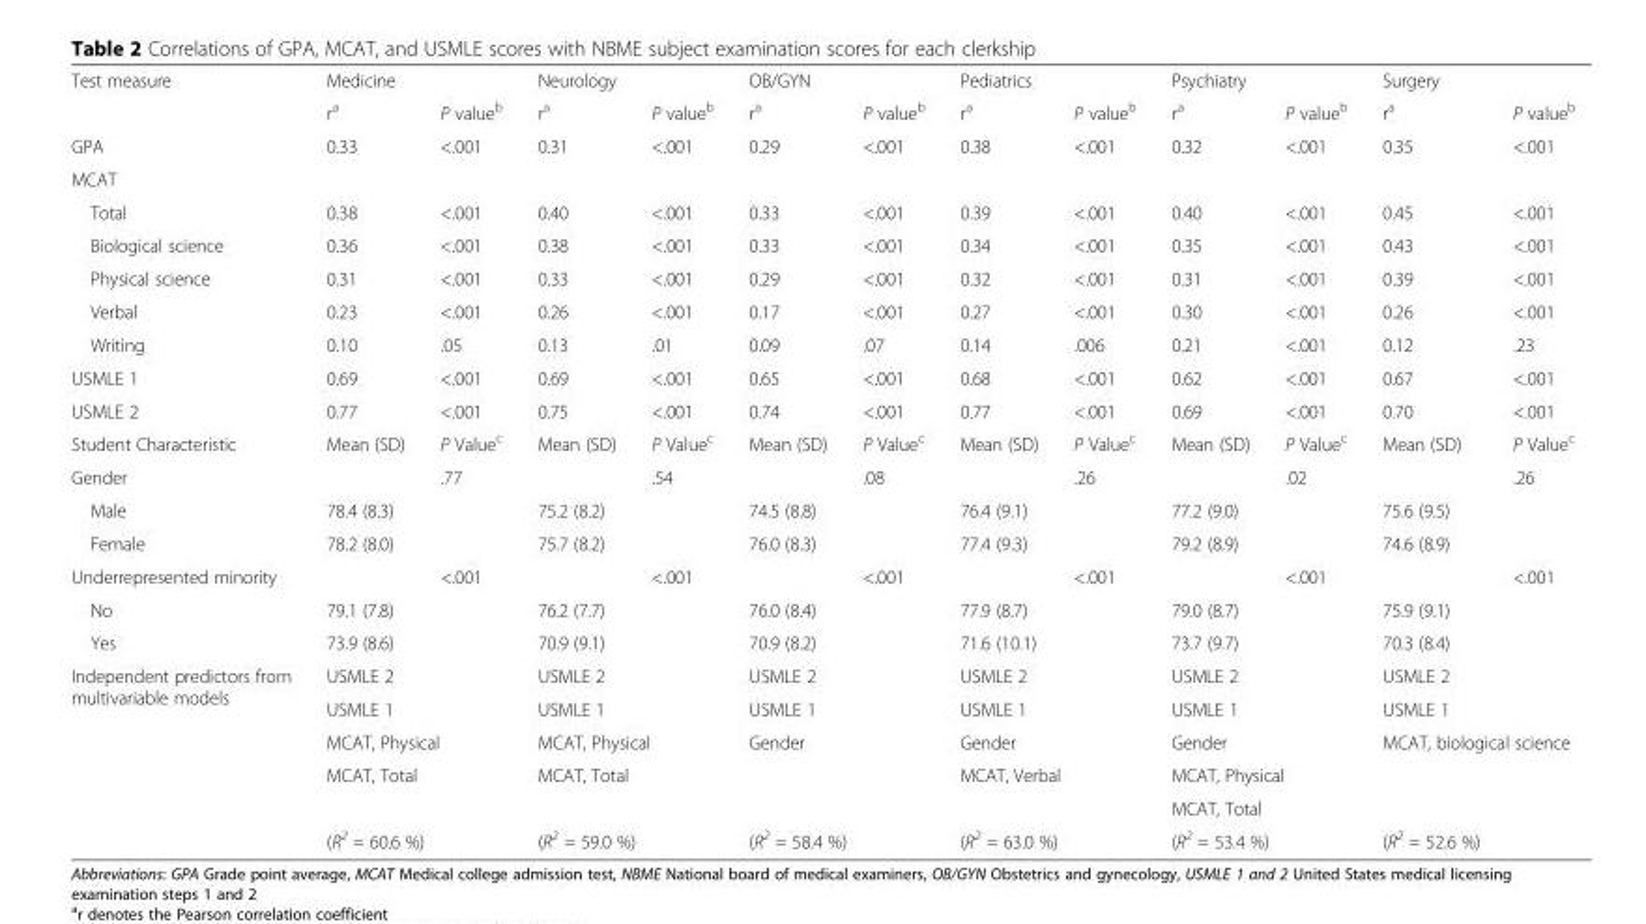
<table><tbody><tr><td rowspan="2">Test measure</td><td colspan="2">Medicine</td><td colspan="2">Neurology</td><td colspan="2">OB/GYN</td><td colspan="2">Pediatrics</td><td colspan="2">Psychiatry</td><td colspan="2">Surgery</td></tr><tr><td>r<sup>a</sup></td><td>P value<sup>b</sup></td><td>r<sup>a</sup></td><td>P value<sup>b</sup></td><td>r<sup>a</sup></td><td>P value<sup>b</sup></td><td>r<sup>a</sup></td><td>P value<sup>b</sup></td><td>r<sup>a</sup></td><td>P value<sup>b</sup></td><td>r<sup>a</sup></td><td>P value<sup>b</sup></td></tr><tr><td>GPA</td><td>0.33</td><td>&lt;.001</td><td>0.31</td><td>&lt;.001</td><td>0.29</td><td>&lt;.001</td><td>0.38</td><td>&lt;.001</td><td>0.32</td><td>&lt;.001</td><td>0.35</td><td>&lt;.001</td></tr><tr><td colspan="13">MCAT</td></tr><tr><td>Total</td><td>0.38</td><td>&lt;.001</td><td>0.40</td><td>&lt;.001</td><td>0.33</td><td>&lt;.001</td><td>0.39</td><td>&lt;.001</td><td>0.40</td><td>&lt;.001</td><td>0.45</td><td>&lt;.001</td></tr><tr><td>Biological science</td><td>0.36</td><td>&lt;.001</td><td>0.38</td><td>&lt;.001</td><td>0.33</td><td>&lt;.001</td><td>0.34</td><td>&lt;.001</td><td>0.35</td><td>&lt;.001</td><td>0.43</td><td>&lt;.001</td></tr><tr><td>Physical science</td><td>0.31</td><td>&lt;.001</td><td>0.33</td><td>&lt;.001</td><td>0.29</td><td>&lt;.001</td><td>0.32</td><td>&lt;.001</td><td>0.31</td><td>&lt;.001</td><td>0.39</td><td>&lt;.001</td></tr><tr><td>Verbal</td><td>0.23</td><td>&lt;.001</td><td>0.26</td><td>&lt;.001</td><td>0.17</td><td>&lt;.001</td><td>0.27</td><td>&lt;.001</td><td>0.30</td><td>&lt;.001</td><td>0.26</td><td>&lt;.001</td></tr><tr><td>Writing</td><td>0.10</td><td>.05</td><td>0.13</td><td>.01</td><td>0.09</td><td>.07</td><td>0.14</td><td>.006</td><td>0.21</td><td>&lt;.001</td><td>0.12</td><td>.23</td></tr><tr><td>USMLE 1</td><td>0.69</td><td>&lt;.001</td><td>0.69</td><td>&lt;.001</td><td>0.65</td><td>&lt;.001</td><td>0.68</td><td>&lt;.001</td><td>0.62</td><td>&lt;.001</td><td>0.67</td><td>&lt;.001</td></tr><tr><td>USMLE 2</td><td>0.77</td><td>&lt;.001</td><td>0.75</td><td>&lt;.001</td><td>0.74</td><td>&lt;.001</td><td>0.77</td><td>&lt;.001</td><td>0.69</td><td>&lt;.001</td><td>0.70</td><td>&lt;.001</td></tr><tr><td>Student Characteristic</td><td>Mean (SD)</td><td>P Value<sup>c</sup></td><td>Mean (SD)</td><td>P Value<sup>c</sup></td><td>Mean (SD)</td><td>P Value<sup>c</sup></td><td>Mean (SD)</td><td>P Value<sup>c</sup></td><td>Mean (SD)</td><td>P Value<sup>c</sup></td><td>Mean (SD)</td><td>P Value<sup>c</sup></td></tr><tr><td>Gender</td><td></td><td>.77</td><td></td><td>.54</td><td></td><td>.08</td><td></td><td>.26</td><td></td><td>.02</td><td></td><td>.26</td></tr><tr><td>Male</td><td>78.4 (8.3)</td><td></td><td>75.2 (8.2)</td><td></td><td>74.5 (8.8)</td><td></td><td>76.4 (9.1)</td><td></td><td>77.2 (9.0)</td><td></td><td>75.6 (9.5)</td><td></td></tr><tr><td>Female</td><td>78.2 (8.0)</td><td></td><td>75.7 (8.2)</td><td></td><td>76.0 (8.3)</td><td></td><td>77.4 (9.3)</td><td></td><td>79.2 (8.9)</td><td></td><td>74.6 (8.9)</td><td></td></tr><tr><td>Underrepresented minority</td><td></td><td>&lt;.001</td><td></td><td>&lt;.001</td><td></td><td>&lt;.001</td><td></td><td>&lt;.001</td><td></td><td>&lt;.001</td><td></td><td>&lt;.001</td></tr><tr><td>No</td><td>79.1 (7.8)</td><td></td><td>76.2 (7.7)</td><td></td><td>76.0 (8.4)</td><td></td><td>77.9 (8.7)</td><td></td><td>79.0 (8.7)</td><td></td><td>75.9 (9.1)</td><td></td></tr><tr><td>Yes</td><td>73.9 (8.6)</td><td></td><td>70.9 (9.1)</td><td></td><td>70.9 (8.2)</td><td></td><td>71.6 (10.1)</td><td></td><td>73.7 (9.7)</td><td></td><td>70.3 (8.4)</td><td></td></tr><tr><td rowspan="6">Independent predictors from multivariable models</td><td colspan="2">USMLE 2</td><td colspan="2">USMLE 2</td><td colspan="2">USMLE 2</td><td colspan="2">USMLE 2</td><td colspan="2">USMLE 2</td><td colspan="2">USMLE 2</td></tr><tr><td colspan="2">USMLE 1</td><td colspan="2">USMLE 1</td><td colspan="2">USMLE 1</td><td colspan="2">USMLE 1</td><td colspan="2">USMLE 1</td><td colspan="2">USMLE 1</td></tr><tr><td colspan="2">MCAT, Physical</td><td colspan="2">MCAT, Physical</td><td colspan="2">Gender</td><td colspan="2">Gender</td><td colspan="2">Gender</td><td colspan="2">MCAT, biological science</td></tr><tr><td colspan="2">MCAT, Total</td><td colspan="2">MCAT, Total</td><td colspan="2"></td><td colspan="2">MCAT, Verbal</td><td colspan="2">MCAT, Physical</td><td colspan="2"></td></tr><tr><td colspan="2"></td><td colspan="2"></td><td colspan="2"></td><td colspan="2"></td><td colspan="2">MCAT, Total</td><td colspan="2"></td></tr><tr><td colspan="2">(R<sup>2</sup> = 60.6 %)</td><td colspan="2">(R<sup>2</sup> = 59.0 %)</td><td colspan="2">(R<sup>2</sup> = 58.4 %)</td><td colspan="2">(R<sup>2</sup> = 63.0 %)</td><td colspan="2">(R<sup>2</sup> = 53.4 %)</td><td colspan="2">(R<sup>2</sup> = 52.6 %)</td></tr></tbody></table>